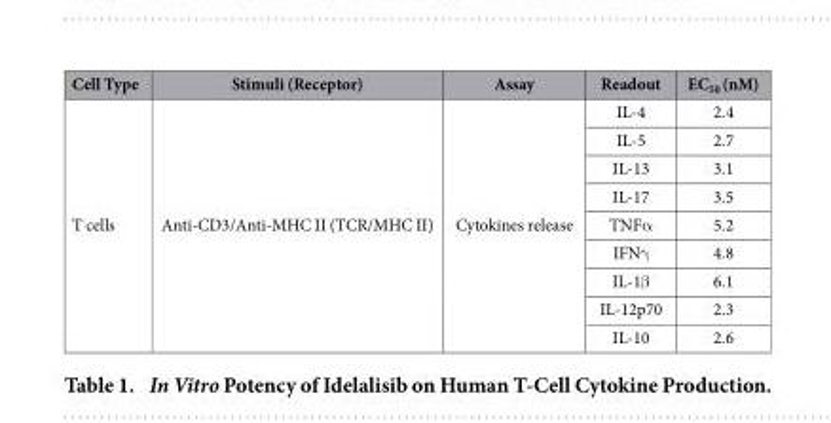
<table><thead><tr><td>Cell Type</td><td>Stimuli (Receptor)</td><td>Assay</td><td>Readout</td><td>EC<sub>50</sub> (nM)</td></tr></thead><tbody><tr><td rowspan="9">T cells</td><td rowspan="9">Anti-CD3/Anti-MHC II (TCR/MHC II)</td><td rowspan="9">Cytokines release</td><td>IL-4</td><td>2.4</td></tr><tr><td>IL-5</td><td>2.7</td></tr><tr><td>IL-13</td><td>3.1</td></tr><tr><td>IL-17</td><td>3.5</td></tr><tr><td>TNFα</td><td>5.2</td></tr><tr><td>IFNγ</td><td>4.8</td></tr><tr><td>IL-1β</td><td>6.1</td></tr><tr><td>IL-12p70</td><td>2.3</td></tr><tr><td>IL-10</td><td>2.6</td></tr></tbody></table>